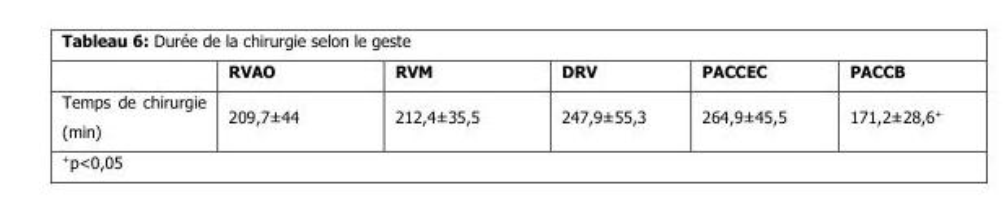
<table><thead><tr><td></td><td>RVAO</td><td>RVM</td><td>DRV</td><td>PACCEC</td><td>PACCB</td></tr></thead><tbody><tr><td>Temps de chirurgie (min)</td><td>209,7±44</td><td>212,4±35,5</td><td>247,9±55,3</td><td>264,9±45,5</td><td>171,2±28,6<sup>+</sup></td></tr></tbody></table>